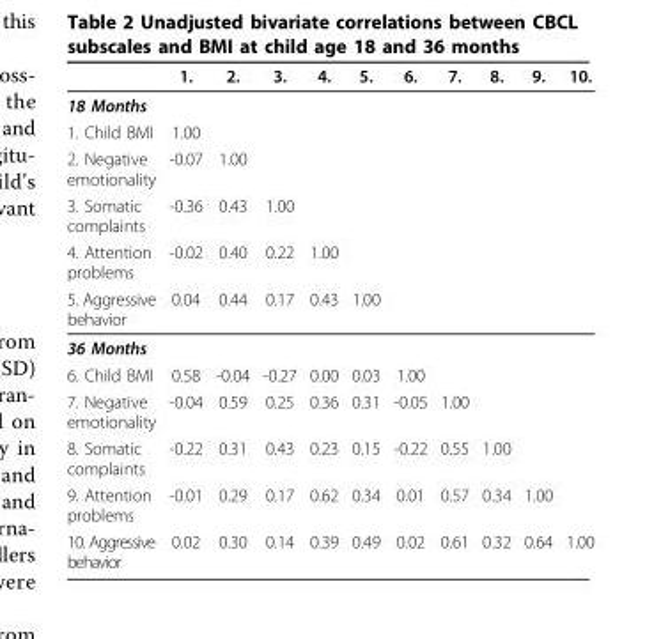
<table><thead><tr><td></td><td>1.</td><td>2.</td><td>3.</td><td>4.</td><td>5.</td><td>6.</td><td>7.</td><td>8.</td><td>9.</td><td>10.</td></tr></thead><tbody><tr><td colspan="11">18 Months</td></tr><tr><td>1. Child BMI</td><td>1.00</td><td></td><td></td><td></td><td></td><td></td><td></td><td></td><td></td><td></td></tr><tr><td>2. Negative emotionality</td><td>-0.07</td><td>1.00</td><td></td><td></td><td></td><td></td><td></td><td></td><td></td><td></td></tr><tr><td>3. Somatic complaints</td><td>-0.36</td><td>0.43</td><td>1.00</td><td></td><td></td><td></td><td></td><td></td><td></td><td></td></tr><tr><td>4. Attention problems</td><td>-0.02</td><td>0.40</td><td>0.22</td><td>1.00</td><td></td><td></td><td></td><td></td><td></td><td></td></tr><tr><td>5. Aggressive behavior</td><td>0.04</td><td>0.44</td><td>0.17</td><td>0.43</td><td>1.00</td><td></td><td></td><td></td><td></td><td></td></tr><tr><td colspan="11">36 Months</td></tr><tr><td>6. Child BMI</td><td>0.58</td><td>-0.04</td><td>-0.27</td><td>0.00</td><td>0.03</td><td>1.00</td><td></td><td></td><td></td><td></td></tr><tr><td>7. Negative emotionality</td><td>-0.04</td><td>0.59</td><td>0.25</td><td>0.36</td><td>0.31</td><td>-0.05</td><td>1.00</td><td></td><td></td><td></td></tr><tr><td>8. Somatic complaints</td><td>-0.22</td><td>0.31</td><td>0.43</td><td>0.23</td><td>0.15</td><td>-0.22</td><td>0.55</td><td>1.00</td><td></td><td></td></tr><tr><td>9. Attention problems</td><td>-0.01</td><td>0.29</td><td>0.17</td><td>0.62</td><td>0.34</td><td>0.01</td><td>0.57</td><td>0.34</td><td>1.00</td><td></td></tr><tr><td>10. Aggressive behavior</td><td>0.02</td><td>0.30</td><td>0.14</td><td>0.39</td><td>0.49</td><td>0.02</td><td>0.61</td><td>0.32</td><td>0.64</td><td>1.00</td></tr></tbody></table>